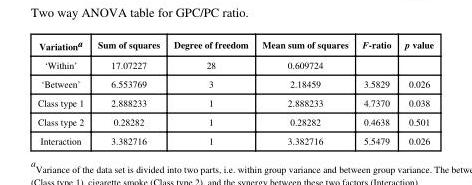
<table><thead><tr><td>Variation<sup>a</sup></td><td>Sum of squares</td><td>Degree of freedom</td><td>Mean sum of squares</td><td>F-ratio</td><td>p value</td></tr></thead><tbody><tr><td>‘Within’</td><td>17.07227</td><td>28</td><td>0.609724</td><td></td><td></td></tr><tr><td>‘Between’</td><td>6.553769</td><td>3</td><td>2.18459</td><td>3.5829</td><td>0.026</td></tr><tr><td>Class type 1</td><td>2.888233</td><td>1</td><td>2.888233</td><td>4.7370</td><td>0.038</td></tr><tr><td>Class type 2</td><td>0.28282</td><td>1</td><td>0.28282</td><td>0.4638</td><td>0.501</td></tr><tr><td>Interaction</td><td>3.382716</td><td>1</td><td>3.382716</td><td>5.5479</td><td>0.026</td></tr></tbody></table>